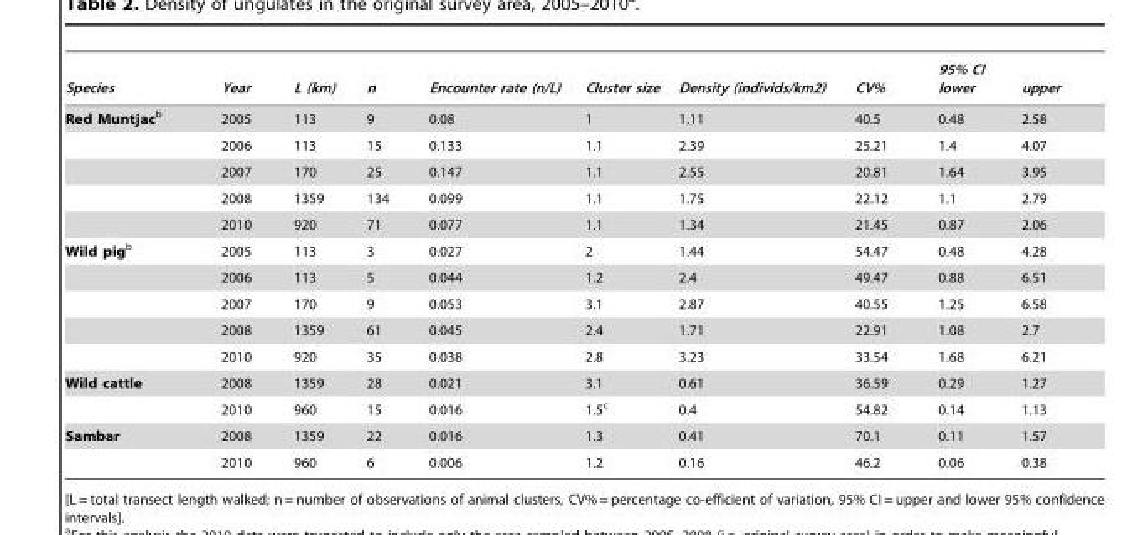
<table><thead><tr><td>Species</td><td>Year</td><td>L (km)</td><td>n</td><td>Encounter rate (n/L)</td><td>Cluster size</td><td>Density (individs/km2)</td><td>CV%</td><td>95% CI lower</td><td>upper</td></tr></thead><tbody><tr><td rowspan="5">Red Muntjacb</td><td>2005</td><td>113</td><td>9</td><td>0.08</td><td>1</td><td>1.11</td><td>40.5</td><td>0.48</td><td>2.58</td></tr><tr><td>2006</td><td>113</td><td>15</td><td>0.133</td><td>1.1</td><td>2.39</td><td>25.21</td><td>1.4</td><td>4.07</td></tr><tr><td>2007</td><td>170</td><td>25</td><td>0.147</td><td>1.1</td><td>2.55</td><td>20.81</td><td>1.64</td><td>3.95</td></tr><tr><td>2008</td><td>1359</td><td>134</td><td>0.099</td><td>1.1</td><td>1.75</td><td>22.12</td><td>1.1</td><td>2.79</td></tr><tr><td>2010</td><td>920</td><td>71</td><td>0.077</td><td>1.1</td><td>1.34</td><td>21.45</td><td>0.87</td><td>2.06</td></tr><tr><td rowspan="5">Wild pigb</td><td>2005</td><td>113</td><td>3</td><td>0.027</td><td>2</td><td>1.44</td><td>54.47</td><td>0.48</td><td>4.28</td></tr><tr><td>2006</td><td>113</td><td>5</td><td>0.044</td><td>1.2</td><td>2.4</td><td>49.47</td><td>0.88</td><td>6.51</td></tr><tr><td>2007</td><td>170</td><td>9</td><td>0.053</td><td>3.1</td><td>2.87</td><td>40.55</td><td>1.25</td><td>6.58</td></tr><tr><td>2008</td><td>1359</td><td>61</td><td>0.045</td><td>2.4</td><td>1.71</td><td>22.91</td><td>1.08</td><td>2.7</td></tr><tr><td>2010</td><td>920</td><td>35</td><td>0.038</td><td>2.8</td><td>3.23</td><td>33.54</td><td>1.68</td><td>6.21</td></tr><tr><td rowspan="2">Wild cattle</td><td>2008</td><td>1359</td><td>28</td><td>0.021</td><td>3.1</td><td>0.61</td><td>36.59</td><td>0.29</td><td>1.27</td></tr><tr><td>2010</td><td>960</td><td>15</td><td>0.016</td><td>1.5<sup>c</sup></td><td>0.4</td><td>54.82</td><td>0.14</td><td>1.13</td></tr><tr><td rowspan="2">Sambar</td><td>2008</td><td>1359</td><td>22</td><td>0.016</td><td>1.3</td><td>0.41</td><td>70.1</td><td>0.11</td><td>1.57</td></tr><tr><td>2010</td><td>960</td><td>6</td><td>0.006</td><td>1.2</td><td>0.16</td><td>46.2</td><td>0.06</td><td>0.38</td></tr></tbody></table>